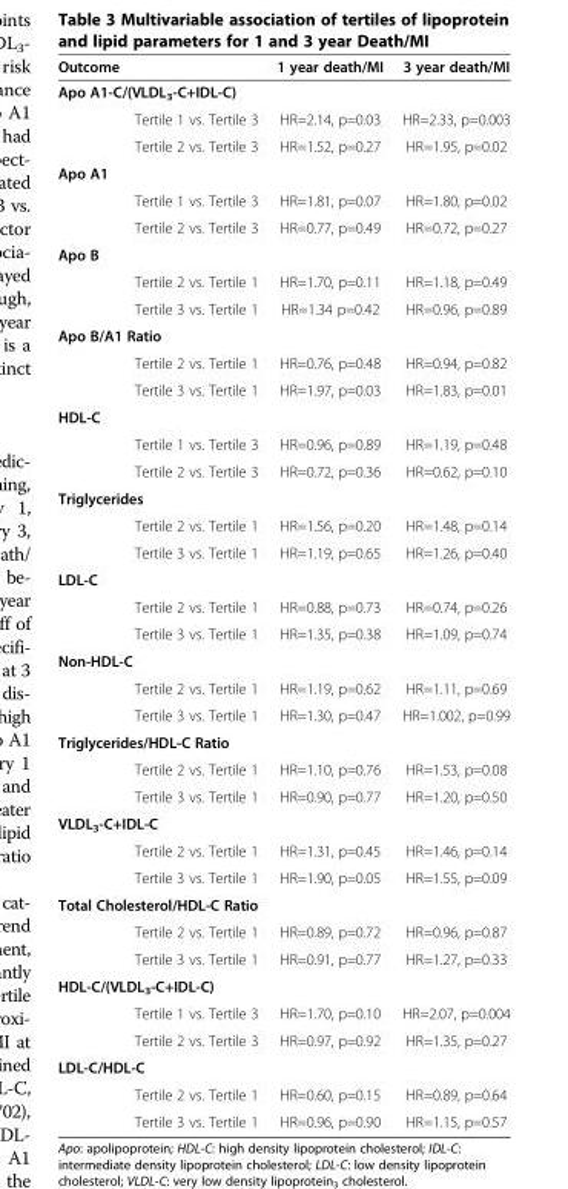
<table><thead><tr><td>Outcome</td><td>1 year death/MI</td><td>3 year death/MI</td></tr></thead><tbody><tr><td colspan="3">Apo A1-C/(VLDL<sub>3</sub>-C+IDL-C)</td></tr><tr><td>Tertile 1 vs. Tertile 3</td><td>HR=2.14, p=0.03</td><td>HR=2.33, p=0.003</td></tr><tr><td>Tertile 2 vs. Tertile 3</td><td>HR=1.52, p=0.27</td><td>HR=1.95, p=0.02</td></tr><tr><td colspan="3">Apo A1</td></tr><tr><td>Tertile 1 vs. Tertile 3</td><td>HR=1.81, p=0.07</td><td>HR=1.80, p=0.02</td></tr><tr><td>Tertile 2 vs. Tertile 3</td><td>HR=0.77, p=0.49</td><td>HR=0.72, p=0.27</td></tr><tr><td colspan="3">Apo B</td></tr><tr><td>Tertile 2 vs. Tertile 1</td><td>HR=1.70, p=0.11</td><td>HR=1.18, p=0.49</td></tr><tr><td>Tertile 3 vs. Tertile 1</td><td>HR=1.34 p=0.42</td><td>HR=0.96, p=0.89</td></tr><tr><td colspan="3">Apo B/A1 Ratio</td></tr><tr><td>Tertile 2 vs. Tertile 1</td><td>HR=0.76, p=0.48</td><td>HR=0.94, p=0.82</td></tr><tr><td>Tertile 3 vs. Tertile 1</td><td>HR=1.97, p=0.03</td><td>HR=1.83, p=0.01</td></tr><tr><td colspan="3">HDL-C</td></tr><tr><td>Tertile 1 vs. Tertile 3</td><td>HR=0.96, p=0.89</td><td>HR=1.19, p=0.48</td></tr><tr><td>Tertile 2 vs. Tertile 3</td><td>HR=0.72, p=0.36</td><td>HR=0.62, p=0.10</td></tr><tr><td colspan="3">Triglycerides</td></tr><tr><td>Tertile 2 vs. Tertile 1</td><td>HR=1.56, p=0.20</td><td>HR=1.48, p=0.14</td></tr><tr><td>Tertile 3 vs. Tertile 1</td><td>HR=1.19, p=0.65</td><td>HR=1.26, p=0.40</td></tr><tr><td colspan="3">LDL-C</td></tr><tr><td>Tertile 2 vs. Tertile 1</td><td>HR=0.88, p=0.73</td><td>HR=0.74, p=0.26</td></tr><tr><td>Tertile 3 vs. Tertile 1</td><td>HR=1.35, p=0.38</td><td>HR=1.09, p=0.74</td></tr><tr><td colspan="3">Non-HDL-C</td></tr><tr><td>Tertile 2 vs. Tertile 1</td><td>HR=1.19, p=0.62</td><td>HR=1.11, p=0.69</td></tr><tr><td>Tertile 3 vs. Tertile 1</td><td>HR=1.30, p=0.47</td><td>HR=1.002, p=0.99</td></tr><tr><td colspan="3">Triglycerides/HDL-C Ratio</td></tr><tr><td>Tertile 2 vs. Tertile 1</td><td>HR=1.10, p=0.76</td><td>HR=1.53, p=0.08</td></tr><tr><td>Tertile 3 vs. Tertile 1</td><td>HR=0.90, p=0.77</td><td>HR=1.20, p=0.50</td></tr><tr><td colspan="3">VLDL<sub>3</sub>-C+IDL-C</td></tr><tr><td>Tertile 2 vs. Tertile 1</td><td>HR=1.31, p=0.45</td><td>HR=1.46, p=0.14</td></tr><tr><td>Tertile 3 vs. Tertile 1</td><td>HR=1.90, p=0.05</td><td>HR=1.55, p=0.09</td></tr><tr><td colspan="3">Total Cholesterol/HDL-C Ratio</td></tr><tr><td>Tertile 2 vs. Tertile 1</td><td>HR=0.89, p=0.72</td><td>HR=0.96, p=0.87</td></tr><tr><td>Tertile 3 vs. Tertile 1</td><td>HR=0.91, p=0.77</td><td>HR=1.27, p=0.33</td></tr><tr><td colspan="3">HDL-C/(VLDL<sub>3</sub>-C+IDL-C)</td></tr><tr><td>Tertile 1 vs. Tertile 3</td><td>HR=1.70, p=0.10</td><td>HR=2.07, p=0.004</td></tr><tr><td>Tertile 2 vs. Tertile 3</td><td>HR=0.97, p=0.92</td><td>HR=1.35, p=0.27</td></tr><tr><td colspan="3">LDL-C/HDL-C</td></tr><tr><td>Tertile 2 vs. Tertile 1</td><td>HR=0.60, p=0.15</td><td>HR=0.89, p=0.64</td></tr><tr><td>Tertile 3 vs. Tertile 1</td><td>HR=0.96, p=0.90</td><td>HR=1.15, p=0.57</td></tr></tbody></table>